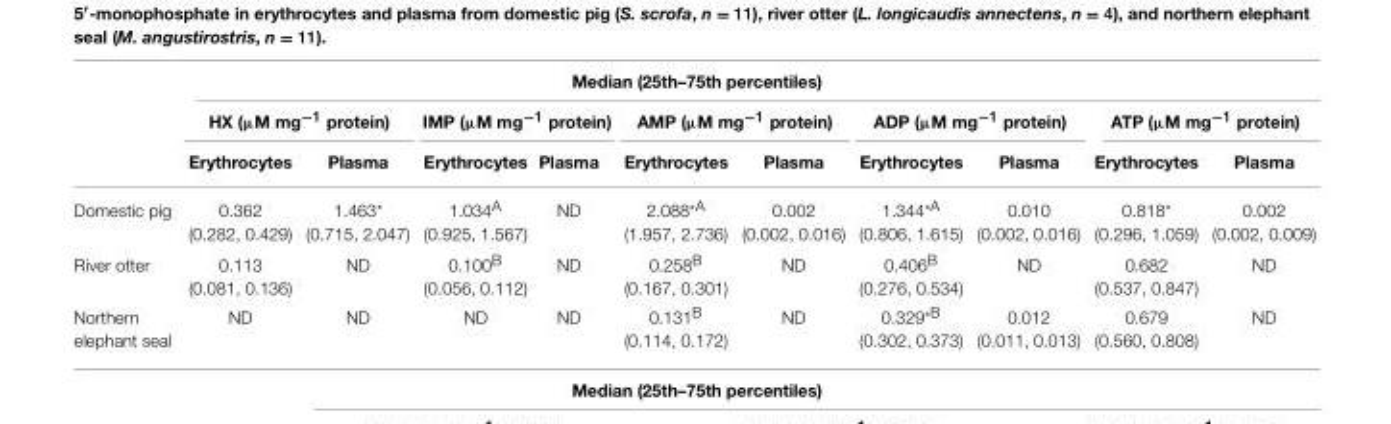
<table><thead><tr><td colspan="11">Median (25th–75th percentiles)</td></tr><tr><td rowspan="2"></td><td colspan="2">HX (µM mg<sup>−1</sup> protein)</td><td colspan="2">IMP (µM mg<sup>−1</sup> protein)</td><td colspan="2">AMP (µM mg<sup>−1</sup> protein)</td><td colspan="2">ADP (µM mg<sup>−1</sup> protein)</td><td colspan="2">ATP (µM mg<sup>−1</sup> protein)</td></tr><tr><td>Erythrocytes</td><td>Plasma</td><td>Erythrocytes</td><td>Plasma</td><td>Erythrocytes</td><td>Plasma</td><td>Erythrocytes</td><td>Plasma</td><td>Erythrocytes</td><td>Plasma</td></tr></thead><tbody><tr><td>Domestic pig</td><td>0.362 (0.282, 0.429)</td><td>1.463* (0.715, 2.047)</td><td>1.034<sup>A</sup> (0.925, 1.567)</td><td>ND</td><td>2.088<sup>*A</sup> (1.957, 2.736)</td><td>0.002 (0.002, 0.016)</td><td>1.344<sup>*A</sup> (0.806, 1.615)</td><td>0.010 (0.002, 0.016)</td><td>0.818* (0.296, 1.059)</td><td>0.002 (0.002, 0.009)</td></tr><tr><td>River otter</td><td>0.113 (0.081, 0.136)</td><td>ND</td><td>0.100<sup>B</sup> (0.056, 0.112)</td><td>ND</td><td>0.258<sup>B</sup> (0.167, 0.301)</td><td>ND</td><td>0.406<sup>B</sup> (0.276, 0.534)</td><td>ND</td><td>0.682 (0.537, 0.847)</td><td>ND</td></tr><tr><td>Northern elephant seal</td><td>ND</td><td>ND</td><td>ND</td><td>ND</td><td>0.131<sup>B</sup> (0.114, 0.172)</td><td>ND</td><td>0.329<sup>*B</sup> (0.302, 0.373)</td><td>0.012 (0.011, 0.013)</td><td>0.679 (0.560, 0.808)</td><td>ND</td></tr></tbody></table>